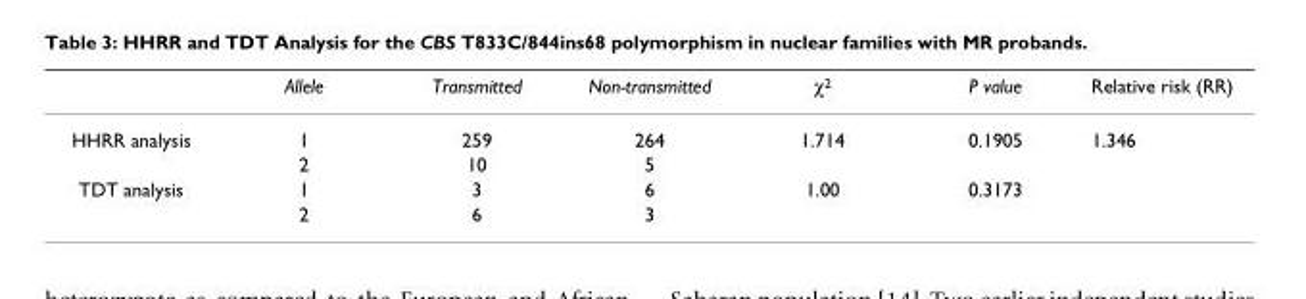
<table><thead><tr><td></td><td>Allele</td><td>Transmitted</td><td>Non-transmitted</td><td>χ<sup>2</sup></td><td>P value</td><td>Relative risk (RR)</td></tr></thead><tbody><tr><td rowspan="2">HHRR analysis</td><td>1</td><td>259</td><td>264</td><td>1.714</td><td>0.1905</td><td>1.346</td></tr><tr><td>2</td><td>10</td><td>5</td><td></td><td></td><td></td></tr><tr><td rowspan="2">TDT analysis</td><td>1</td><td>3</td><td>6</td><td>1.00</td><td>0.3173</td><td></td></tr><tr><td>2</td><td>6</td><td>3</td><td></td><td></td><td></td></tr></tbody></table>